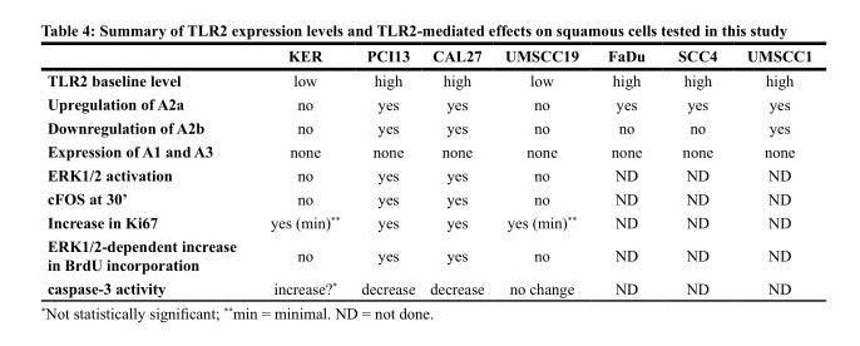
<table><thead><tr><td></td><td>KER</td><td>PCI13</td><td>CAL27</td><td>UMSCC19</td><td>FaDu</td><td>SCC4</td><td>UMSCC1</td></tr></thead><tbody><tr><td>TLR2 baseline level</td><td>low</td><td>high</td><td>high</td><td>low</td><td>high</td><td>high</td><td>high</td></tr><tr><td>Upregulation of A2a</td><td>no</td><td>yes</td><td>yes</td><td>no</td><td>yes</td><td>yes</td><td>yes</td></tr><tr><td>Downregulation of A2b</td><td>no</td><td>yes</td><td>yes</td><td>no</td><td>no</td><td>no</td><td>yes</td></tr><tr><td>Expression of A1 and A3</td><td>none</td><td>none</td><td>none</td><td>none</td><td>none</td><td>none</td><td>none</td></tr><tr><td>ERK1/2 activation</td><td>no</td><td>yes</td><td>yes</td><td>no</td><td>ND</td><td>ND</td><td>ND</td></tr><tr><td>cFOS at 30’</td><td>no</td><td>yes</td><td>yes</td><td>no</td><td>ND</td><td>ND</td><td>ND</td></tr><tr><td>Increase in Ki67</td><td>yes (min)**</td><td>yes</td><td>yes</td><td>yes (min)**</td><td>ND</td><td>ND</td><td>ND</td></tr><tr><td>ERK1/2-dependent increase in BrdU incorporation</td><td>no</td><td>yes</td><td>yes</td><td>no</td><td>ND</td><td>ND</td><td>ND</td></tr><tr><td>caspase-3 activity</td><td>increase?*</td><td>decrease</td><td>decrease</td><td>no change</td><td>ND</td><td>ND</td><td>ND</td></tr></tbody></table>